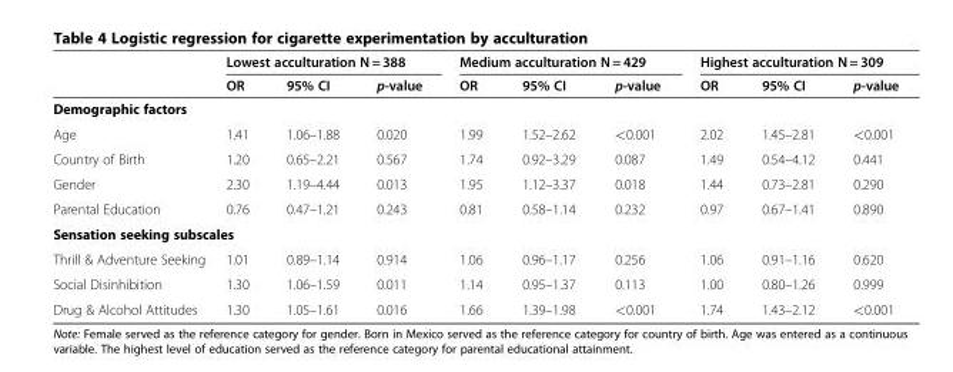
<table><thead><tr><td rowspan="2"></td><td colspan="3">Lowest acculturation N = 388</td><td colspan="3">Medium acculturation N = 429</td><td colspan="3">Highest acculturation N = 309</td></tr><tr><td>OR</td><td>95% CI</td><td>p-value</td><td>OR</td><td>95% CI</td><td>p-value</td><td>OR</td><td>95% CI</td><td>p-value</td></tr></thead><tbody><tr><td colspan="10">Demographic factors</td></tr><tr><td>Age</td><td>1.41</td><td>1.06–1.88</td><td>0.020</td><td>1.99</td><td>1.52–2.62</td><td>&lt;0.001</td><td>2.02</td><td>1.45–2.81</td><td>&lt;0.001</td></tr><tr><td>Country of Birth</td><td>1.20</td><td>0.65–2.21</td><td>0.567</td><td>1.74</td><td>0.92–3.29</td><td>0.087</td><td>1.49</td><td>0.54–4.12</td><td>0.441</td></tr><tr><td>Gender</td><td>2.30</td><td>1.19–4.44</td><td>0.013</td><td>1.95</td><td>1.12–3.37</td><td>0.018</td><td>1.44</td><td>0.73–2.81</td><td>0.290</td></tr><tr><td>Parental Education</td><td>0.76</td><td>0.47–1.21</td><td>0.243</td><td>0.81</td><td>0.58–1.14</td><td>0.232</td><td>0.97</td><td>0.67–1.41</td><td>0.890</td></tr><tr><td colspan="10">Sensation seeking subscales</td></tr><tr><td>Thrill &amp; Adventure Seeking</td><td>1.01</td><td>0.89–1.14</td><td>0.914</td><td>1.06</td><td>0.96–1.17</td><td>0.256</td><td>1.06</td><td>0.91–1.16</td><td>0.620</td></tr><tr><td>Social Disinhibition</td><td>1.30</td><td>1.06–1.59</td><td>0.011</td><td>1.14</td><td>0.95–1.37</td><td>0.113</td><td>1.00</td><td>0.80–1.26</td><td>0.999</td></tr><tr><td>Drug &amp; Alcohol Attitudes</td><td>1.30</td><td>1.05–1.61</td><td>0.016</td><td>1.66</td><td>1.39–1.98</td><td>&lt;0.001</td><td>1.74</td><td>1.43–2.12</td><td>&lt;0.001</td></tr></tbody></table>